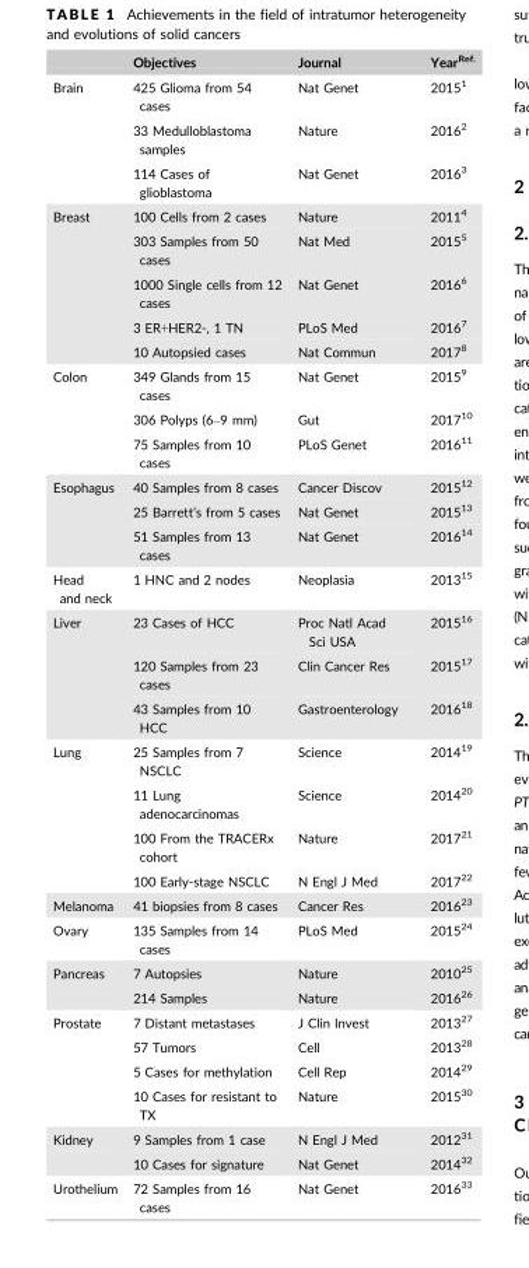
<table><thead><tr><td></td><td>Objectives</td><td>Journal</td><td>Year<sup>Ref.</sup></td></tr></thead><tbody><tr><td rowspan="3">Brain</td><td>425 Glioma from 54 cases</td><td>Nat Genet</td><td>2015<sup>1</sup></td></tr><tr><td>33 Medulloblastoma samples</td><td>Nature</td><td>2016<sup>2</sup></td></tr><tr><td>114 Cases of glioblastoma</td><td>Nat Genet</td><td>2016<sup>3</sup></td></tr><tr><td rowspan="5">Breast</td><td>100 Cells from 2 cases</td><td>Nature</td><td>2011<sup>4</sup></td></tr><tr><td>303 Samples from 50 cases</td><td>Nat Med</td><td>2015<sup>5</sup></td></tr><tr><td>1000 Single cells from 12 cases</td><td>Nat Genet</td><td>2016<sup>6</sup></td></tr><tr><td>3 ER+HER2-, 1 TN</td><td>PLoS Med</td><td>2016<sup>7</sup></td></tr><tr><td>10 Autopsied cases</td><td>Nat Commun</td><td>2017<sup>8</sup></td></tr><tr><td rowspan="3">Colon</td><td>349 Glands from 15 cases</td><td>Nat Genet</td><td>2015<sup>9</sup></td></tr><tr><td>306 Polyps (6–9 mm)</td><td>Gut</td><td>2017<sup>10</sup></td></tr><tr><td>75 Samples from 10 cases</td><td>PLoS Genet</td><td>2016<sup>11</sup></td></tr><tr><td rowspan="3">Esophagus</td><td>40 Samples from 8 cases</td><td>Cancer Discov</td><td>2015<sup>12</sup></td></tr><tr><td>25 Barrett’s from 5 cases</td><td>Nat Genet</td><td>2015<sup>13</sup></td></tr><tr><td>51 Samples from 13 cases</td><td>Nat Genet</td><td>2016<sup>14</sup></td></tr><tr><td>Head and neck</td><td>1 HNC and 2 nodes</td><td>Neoplasia</td><td>2013<sup>15</sup></td></tr><tr><td rowspan="3">Liver</td><td>23 Cases of HCC</td><td>Proc Natl Acad Sci USA</td><td>2015<sup>16</sup></td></tr><tr><td>120 Samples from 23 cases</td><td>Clin Cancer Res</td><td>2015<sup>17</sup></td></tr><tr><td>43 Samples from 10 HCC</td><td>Gastroenterology</td><td>2016<sup>18</sup></td></tr><tr><td rowspan="4">Lung</td><td>25 Samples from 7 NSCLC</td><td>Science</td><td>2014<sup>19</sup></td></tr><tr><td>11 Lung adenocarcinomas</td><td>Science</td><td>2014<sup>20</sup></td></tr><tr><td>100 From the TRACERx cohort</td><td>Nature</td><td>2017<sup>21</sup></td></tr><tr><td>100 Early-stage NSCLC</td><td>N Engl J Med</td><td>2017<sup>22</sup></td></tr><tr><td>Melanoma</td><td>41 biopsies from 8 cases</td><td>Cancer Res</td><td>2016<sup>23</sup></td></tr><tr><td>Ovary</td><td>135 Samples from 14 cases</td><td>PLoS Med</td><td>2015<sup>24</sup></td></tr><tr><td rowspan="2">Pancreas</td><td>7 Autopsies</td><td>Nature</td><td>2010<sup>25</sup></td></tr><tr><td>214 Samples</td><td>Nature</td><td>2016<sup>26</sup></td></tr><tr><td rowspan="4">Prostate</td><td>7 Distant metastases</td><td>J Clin Invest</td><td>2013<sup>27</sup></td></tr><tr><td>57 Tumors</td><td>Cell</td><td>2013<sup>28</sup></td></tr><tr><td>5 Cases for methylation</td><td>Cell Rep</td><td>2014<sup>29</sup></td></tr><tr><td>10 Cases for resistant to TX</td><td>Nature</td><td>2015<sup>30</sup></td></tr><tr><td rowspan="2">Kidney</td><td>9 Samples from 1 case</td><td>N Engl J Med</td><td>2012<sup>31</sup></td></tr><tr><td>10 Cases for signature</td><td>Nat Genet</td><td>2014<sup>32</sup></td></tr><tr><td>Urothelium</td><td>72 Samples from 16 cases</td><td>Nat Genet</td><td>2016<sup>33</sup></td></tr></tbody></table>